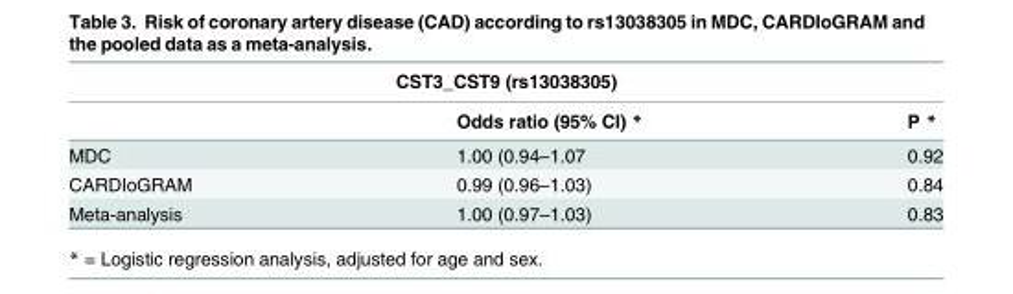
<table><thead><tr><td colspan="3">CST3_CST9 (rs13038305)</td></tr><tr><td></td><td>Odds ratio (95% CI) *</td><td>P *</td></tr></thead><tbody><tr><td>MDC</td><td>1.00 (0.94–1.07</td><td>0.92</td></tr><tr><td>CARDIoGRAM</td><td>0.99 (0.96–1.03)</td><td>0.84</td></tr><tr><td>Meta-analysis</td><td>1.00 (0.97–1.03)</td><td>0.83</td></tr></tbody></table>